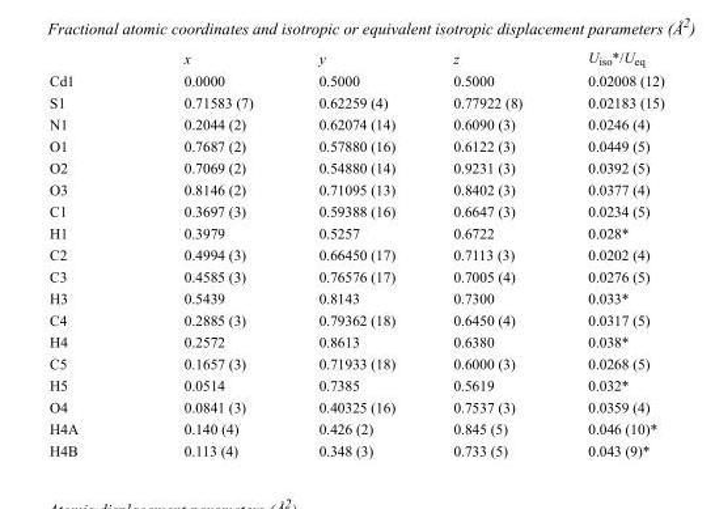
<table><thead><tr><td></td><td>x</td><td>y</td><td>z</td><td>U<sub>iso</sub>*/U<sub>eq</sub></td></tr></thead><tbody><tr><td>Cd1</td><td>0.0000</td><td>0.5000</td><td>0.5000</td><td>0.02008 (12)</td></tr><tr><td>S1</td><td>0.71583 (7)</td><td>0.62259 (4)</td><td>0.77922 (8)</td><td>0.02183 (15)</td></tr><tr><td>N1</td><td>0.2044 (2)</td><td>0.62074 (14)</td><td>0.6090 (3)</td><td>0.0246 (4)</td></tr><tr><td>O1</td><td>0.7687 (2)</td><td>0.57880 (16)</td><td>0.6122 (3)</td><td>0.0449 (5)</td></tr><tr><td>O2</td><td>0.7069 (2)</td><td>0.54880 (14)</td><td>0.9231 (3)</td><td>0.0392 (5)</td></tr><tr><td>O3</td><td>0.8146 (2)</td><td>0.71095 (13)</td><td>0.8402 (3)</td><td>0.0377 (4)</td></tr><tr><td>C1</td><td>0.3697 (3)</td><td>0.59388 (16)</td><td>0.6647 (3)</td><td>0.0234 (5)</td></tr><tr><td>H1</td><td>0.3979</td><td>0.5257</td><td>0.6722</td><td>0.028*</td></tr><tr><td>C2</td><td>0.4994 (3)</td><td>0.66450 (17)</td><td>0.7113 (3)</td><td>0.0202 (4)</td></tr><tr><td>C3</td><td>0.4585 (3)</td><td>0.76576 (17)</td><td>0.7005 (4)</td><td>0.0276 (5)</td></tr><tr><td>H3</td><td>0.5439</td><td>0.8143</td><td>0.7300</td><td>0.033*</td></tr><tr><td>C4</td><td>0.2885 (3)</td><td>0.79362 (18)</td><td>0.6450 (4)</td><td>0.0317 (5)</td></tr><tr><td>H4</td><td>0.2572</td><td>0.8613</td><td>0.6380</td><td>0.038*</td></tr><tr><td>C5</td><td>0.1657 (3)</td><td>0.71933 (18)</td><td>0.6000 (3)</td><td>0.0268 (5)</td></tr><tr><td>H5</td><td>0.0514</td><td>0.7385</td><td>0.5619</td><td>0.032*</td></tr><tr><td>O4</td><td>0.0841 (3)</td><td>0.40325 (16)</td><td>0.7537 (3)</td><td>0.0359 (4)</td></tr><tr><td>H4A</td><td>0.140 (4)</td><td>0.426 (2)</td><td>0.845 (5)</td><td>0.046 (10)*</td></tr><tr><td>H4B</td><td>0.113 (4)</td><td>0.348 (3)</td><td>0.733 (5)</td><td>0.043 (9)*</td></tr></tbody></table>